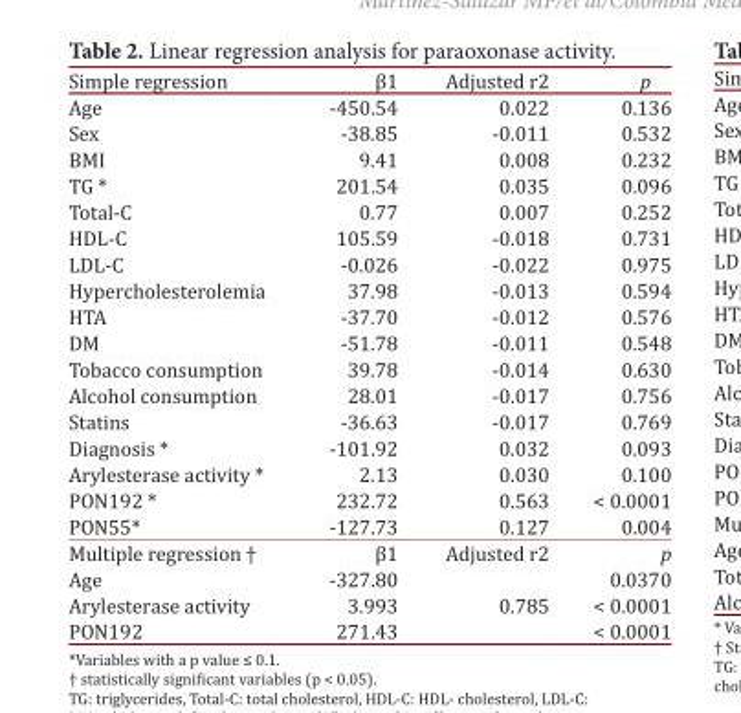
<table><thead><tr><td>Simple regression</td><td>β1</td><td>Adjusted r<sup>2</sup></td><td>p</td></tr></thead><tbody><tr><td>Age</td><td>-450.54</td><td>0.022</td><td>0.136</td></tr><tr><td>Sex</td><td>-38.85</td><td>-0.011</td><td>0.532</td></tr><tr><td>BMI</td><td>9.41</td><td>0.008</td><td>0.232</td></tr><tr><td>TG *</td><td>201.54</td><td>0.035</td><td>0.096</td></tr><tr><td>Total-C</td><td>0.77</td><td>0.007</td><td>0.252</td></tr><tr><td>HDL-C</td><td>105.59</td><td>-0.018</td><td>0.731</td></tr><tr><td>LDL-C</td><td>-0.026</td><td>-0.022</td><td>0.975</td></tr><tr><td>Hypercholesterolemia</td><td>37.98</td><td>-0.013</td><td>0.594</td></tr><tr><td>HTA</td><td>-37.70</td><td>-0.012</td><td>0.576</td></tr><tr><td>DM</td><td>-51.78</td><td>-0.011</td><td>0.548</td></tr><tr><td>Tobacco consumption</td><td>39.78</td><td>-0.014</td><td>0.630</td></tr><tr><td>Alcohol consumption</td><td>28.01</td><td>-0.017</td><td>0.756</td></tr><tr><td>Statins</td><td>-36.63</td><td>-0.017</td><td>0.769</td></tr><tr><td>Diagnosis *</td><td>-101.92</td><td>0.032</td><td>0.093</td></tr><tr><td>Arylesterase activity *</td><td>2.13</td><td>0.030</td><td>0.100</td></tr><tr><td>PON192 *</td><td>232.72</td><td>0.563</td><td>&lt; 0.0001</td></tr><tr><td>PON55*</td><td>-127.73</td><td>0.127</td><td>0.004</td></tr><tr><td>Multiple regression <sup>†</sup></td><td>β1</td><td>Adjusted r<sup>2</sup></td><td>p</td></tr><tr><td>Age</td><td>-327.80</td><td></td><td>0.0370</td></tr><tr><td>Arylesterase activity</td><td>3.993</td><td>0.785</td><td>&lt; 0.0001</td></tr><tr><td>PON192</td><td>271.43</td><td></td><td>&lt; 0.0001</td></tr></tbody></table>